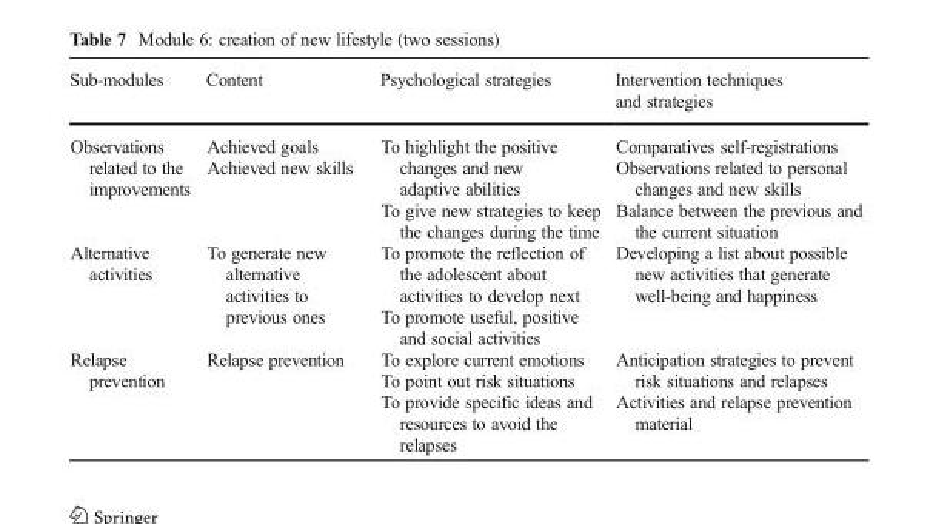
<table><thead><tr><td>Sub-modules</td><td>Content</td><td>Psychological strategies</td><td>Intervention techniques and strategies</td></tr></thead><tbody><tr><td>Observations related to the improvements</td><td>Achieved goals Achieved new skills</td><td>To highlight the positive changes and new adaptive abilities To give new strategies to keep the changes during the time</td><td>Comparatives self-registrations Observations related to personal changes and new skills Balance between the previous and the current situation</td></tr><tr><td>Alternative activities</td><td>To generate new alternative activities to previous ones</td><td>To promote the reflection of the adolescent about activities to develop next To promote useful, positive and social activities</td><td>Developing a list about possible new activities that generate well-being and happiness</td></tr><tr><td>Relapse prevention</td><td>Relapse prevention</td><td>To explore current emotions To point out risk situations To provide specific ideas and resources to avoid the relapses</td><td>Anticipation strategies to prevent risk situations and relapses Activities and relapse prevention material</td></tr></tbody></table>